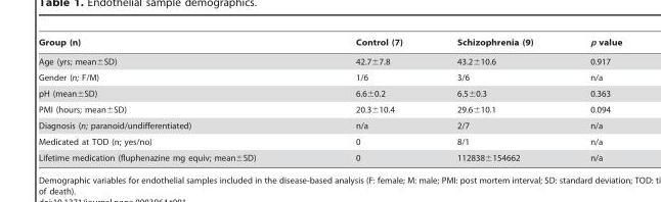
<table><thead><tr><td>Group (n)</td><td>Control (7)</td><td>Schizophrenia (9)</td><td>p value</td></tr></thead><tbody><tr><td>Age (yrs; mean±SD)</td><td>42.7±7.8</td><td>43.2±10.6</td><td>0.917</td></tr><tr><td>Gender (n; F/M)</td><td>1/6</td><td>3/6</td><td>n/a</td></tr><tr><td>pH (mean±SD)</td><td>6.6±0.2</td><td>6.5±0.3</td><td>0.363</td></tr><tr><td>PMI (hours; mean±SD)</td><td>20.3±10.4</td><td>29.6±10.1</td><td>0.094</td></tr><tr><td>Diagnosis (n; paranoid/undifferentiated)</td><td>n/a</td><td>2/7</td><td>n/a</td></tr><tr><td>Medicated at TOD (n; yes/no)</td><td>0</td><td>8/1</td><td>n/a</td></tr><tr><td>Lifetime medication (fluphenazine mg equiv; mean±SD)</td><td>0</td><td>112838±154662</td><td>n/a</td></tr></tbody></table>